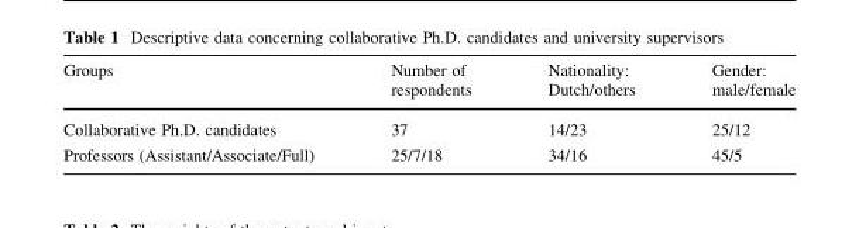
<table><thead><tr><td>Groups</td><td>Number of respondents</td><td>Nationality: Dutch/others</td><td>Gender: male/female</td></tr></thead><tbody><tr><td>Collaborative Ph.D. candidates</td><td>37</td><td>14/23</td><td>25/12</td></tr><tr><td>Professors (Assistant/Associate/Full)</td><td>25/7/18</td><td>34/16</td><td>45/5</td></tr></tbody></table>